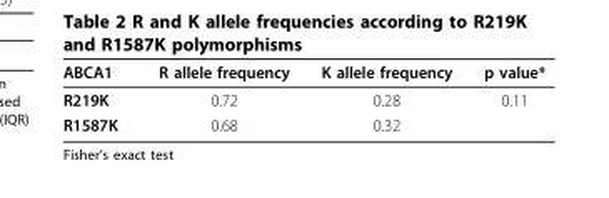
<table><thead><tr><td>ABCA1</td><td>R allele frequency</td><td>K allele frequency</td><td>p value*</td></tr></thead><tbody><tr><td>R219K</td><td>0.72</td><td>0.28</td><td>0.11</td></tr><tr><td>R1587K</td><td>0.68</td><td>0.32</td><td></td></tr></tbody></table>